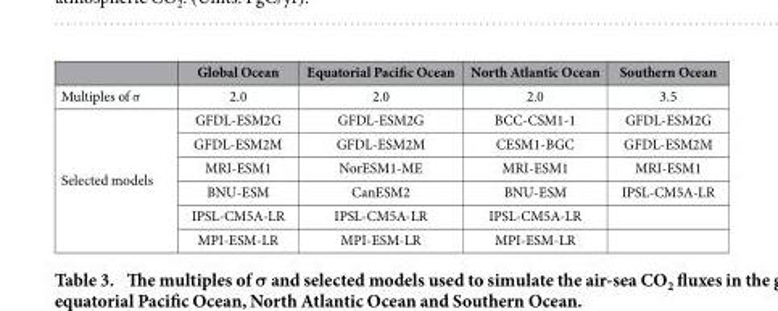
<table><thead><tr><td></td><td>Global Ocean</td><td>Equatorial Pacific Ocean</td><td>North Atlantic Ocean</td><td>Southern Ocean</td></tr></thead><tbody><tr><td>Multiples of σ</td><td>2.0</td><td>2.0</td><td>2.0</td><td>3.5</td></tr><tr><td rowspan="6">Selected models</td><td>GFDL-ESM2G</td><td>GFDL-ESM2G</td><td>BCC-CSM1-1</td><td>GFDL-ESM2G</td></tr><tr><td>GFDL-ESM2M</td><td>GFDL-ESM2M</td><td>CESM1-BGC</td><td>GFDL-ESM2M</td></tr><tr><td>MRI-ESM1</td><td>NorESM1-ME</td><td>MRI-ESM1</td><td>MRI-ESM1</td></tr><tr><td>BNU-ESM</td><td>CanESM2</td><td>BNU-ESM</td><td>IPSL-CM5A-LR</td></tr><tr><td>IPSL-CM5A-LR</td><td>IPSL-CM5A-LR</td><td>IPSL-CM5A-LR</td><td></td></tr><tr><td>MPI-ESM-LR</td><td>MPI-ESM-LR</td><td>MPI-ESM-LR</td><td></td></tr></tbody></table>